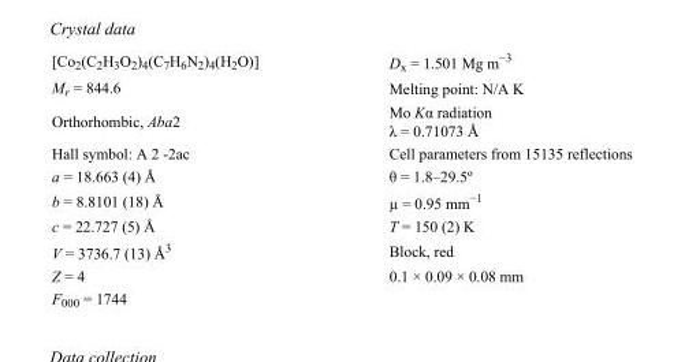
<table><tbody><tr><td>[Co<sub>2</sub>(C<sub>2</sub>H<sub>3</sub>O<sub>2</sub>)<sub>4</sub>(C<sub>7</sub>H<sub>6</sub>N<sub>2</sub>)<sub>4</sub>(H<sub>2</sub>O)]</td><td>D<sub>x</sub> = 1.501 Mg m<sup>−3</sup></td></tr><tr><td>M<sub>r</sub> = 844.6</td><td>Melting point: N/A K</td></tr><tr><td>Orthorhombic, Aba2</td><td>Mo Kα radiation λ = 0.71073 Å</td></tr><tr><td>Hall symbol: A 2 -2ac</td><td>Cell parameters from 15135 reflections</td></tr><tr><td>a = 18.663 (4) Å</td><td>θ = 1.8–29.5º</td></tr><tr><td>b = 8.8101 (18) Å</td><td>µ = 0.95 mm<sup>−1</sup></td></tr><tr><td>c = 22.727 (5) Å</td><td>T = 150 (2) K</td></tr><tr><td>V = 3736.7 (13) Å<sup>3</sup></td><td>Block, red</td></tr><tr><td>Z = 4</td><td>0.1 × 0.09 × 0.08 mm</td></tr><tr><td>F<sub>000</sub> = 1744</td><td></td></tr></tbody></table>